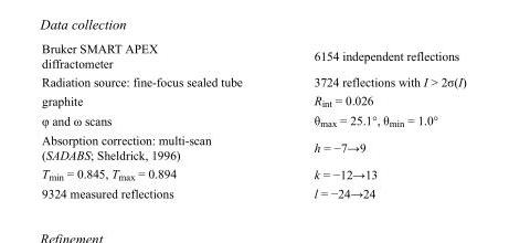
<table><tbody><tr><td>Bruker SMART APEX diffractometer</td><td>6154 independent reflections</td></tr><tr><td>Radiation source: fine-focus sealed tube</td><td>3724 reflections with I &gt; 2σ(I)</td></tr><tr><td>graphite</td><td>R<sub>int</sub> = 0.026</td></tr><tr><td>φ and ω scans</td><td>θ<sub>max</sub> = 25.1°, θ<sub>min</sub> = 1.0°</td></tr><tr><td>Absorption correction: multi-scan (SADABS; Sheldrick, 1996)</td><td>h = −7→9</td></tr><tr><td>T<sub>min</sub> = 0.845, T<sub>max</sub> = 0.894</td><td>k = −12→13</td></tr><tr><td>9324 measured reflections</td><td>l = −24→24</td></tr></tbody></table>